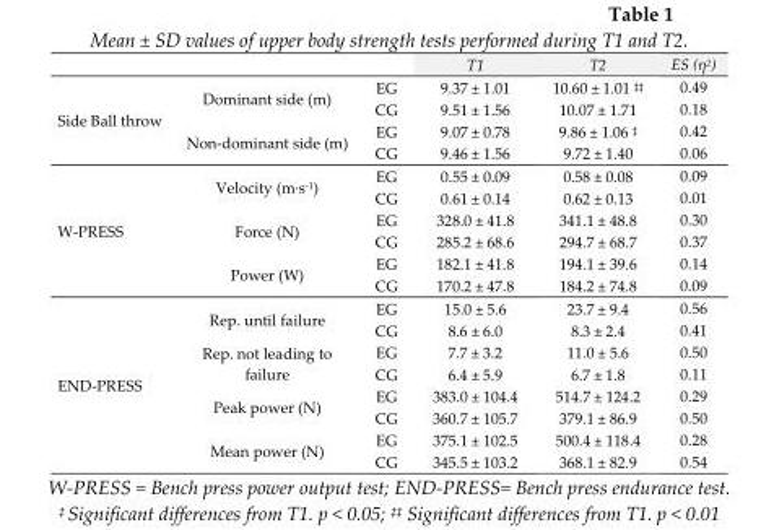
<table><thead><tr><td></td><td></td><td></td><td>T1</td><td>T2</td><td>ES (η<sup>2</sup>)</td></tr></thead><tbody><tr><td rowspan="4">Side Ball throw</td><td rowspan="2">Dominant side (m)</td><td>EG</td><td>9.37 ± 1.01</td><td>10.60 ± 1.01 <sup>‡‡</sup></td><td>0.49</td></tr><tr><td>CG</td><td>9.51 ± 1.56</td><td>10.07 ± 1.71</td><td>0.18</td></tr><tr><td rowspan="2">Non-dominant side (m)</td><td>EG</td><td>9.07 ± 0.78</td><td>9.86 ± 1.06 <sup>‡</sup></td><td>0.42</td></tr><tr><td>CG</td><td>9.46 ± 1.56</td><td>9.72 ± 1.40</td><td>0.06</td></tr><tr><td rowspan="6">W-PRESS</td><td rowspan="2">Velocity (m·s<sup>-1</sup>)</td><td>EG</td><td>0.55 ± 0.09</td><td>0.58 ± 0.08</td><td>0.09</td></tr><tr><td>CG</td><td>0.61 ± 0.14</td><td>0.62 ± 0.13</td><td>0.01</td></tr><tr><td rowspan="2">Force (N)</td><td>EG</td><td>328.0 ± 41.8</td><td>341.1 ± 48.8</td><td>0.30</td></tr><tr><td>CG</td><td>285.2 ± 68.6</td><td>294.7 ± 68.7</td><td>0.37</td></tr><tr><td rowspan="2">Power (W)</td><td>EG</td><td>182.1 ± 41.8</td><td>194.1 ± 39.6</td><td>0.14</td></tr><tr><td>CG</td><td>170.2 ± 47.8</td><td>184.2 ± 74.8</td><td>0.09</td></tr><tr><td rowspan="8">END-PRESS</td><td rowspan="2">Rep. until failure</td><td>EG</td><td>15.0 ± 5.6</td><td>23.7 ± 9.4</td><td>0.56</td></tr><tr><td>CG</td><td>8.6 ± 6.0</td><td>8.3 ± 2.4</td><td>0.41</td></tr><tr><td rowspan="2">Rep. not leading to failure</td><td>EG</td><td>7.7 ± 3.2</td><td>11.0 ± 5.6</td><td>0.50</td></tr><tr><td>CG</td><td>6.4 ± 5.9</td><td>6.7 ± 1.8</td><td>0.11</td></tr><tr><td rowspan="2">Peak power (N)</td><td>EG</td><td>383.0 ± 104.4</td><td>514.7 ± 124.2</td><td>0.29</td></tr><tr><td>CG</td><td>360.7 ± 105.7</td><td>379.1 ± 86.9</td><td>0.50</td></tr><tr><td rowspan="2">Mean power (N)</td><td>EG</td><td>375.1 ± 102.5</td><td>500.4 ± 118.4</td><td>0.28</td></tr><tr><td>CG</td><td>345.5 ± 103.2</td><td>368.1 ± 82.9</td><td>0.54</td></tr></tbody></table>